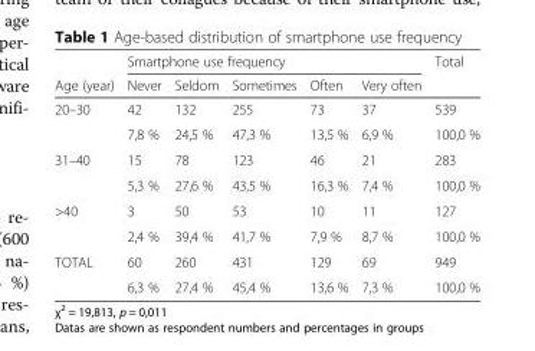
<table><thead><tr><td rowspan="2">Age (year)</td><td colspan="5">Smartphone use frequency</td><td rowspan="2">Total</td></tr><tr><td>Never</td><td>Seldom</td><td>Sometimes</td><td>Often</td><td>Very often</td></tr></thead><tbody><tr><td rowspan="2">20–30</td><td>42</td><td>132</td><td>255</td><td>73</td><td>37</td><td>539</td></tr><tr><td>7,8 %</td><td>24,5 %</td><td>47,3 %</td><td>13,5 %</td><td>6,9 %</td><td>100,0 %</td></tr><tr><td rowspan="2">31–40</td><td>15</td><td>78</td><td>123</td><td>46</td><td>21</td><td>283</td></tr><tr><td>5,3 %</td><td>27,6 %</td><td>43,5 %</td><td>16,3 %</td><td>7,4 %</td><td>100,0 %</td></tr><tr><td rowspan="2">&gt;40</td><td>3</td><td>50</td><td>53</td><td>10</td><td>11</td><td>127</td></tr><tr><td>2,4 %</td><td>39,4 %</td><td>41,7 %</td><td>7,9 %</td><td>8,7 %</td><td>100,0 %</td></tr><tr><td rowspan="2">TOTAL</td><td>60</td><td>260</td><td>431</td><td>129</td><td>69</td><td>949</td></tr><tr><td>6,3 %</td><td>27,4 %</td><td>45,4 %</td><td>13,6 %</td><td>7,3 %</td><td>100,0 %</td></tr></tbody></table>